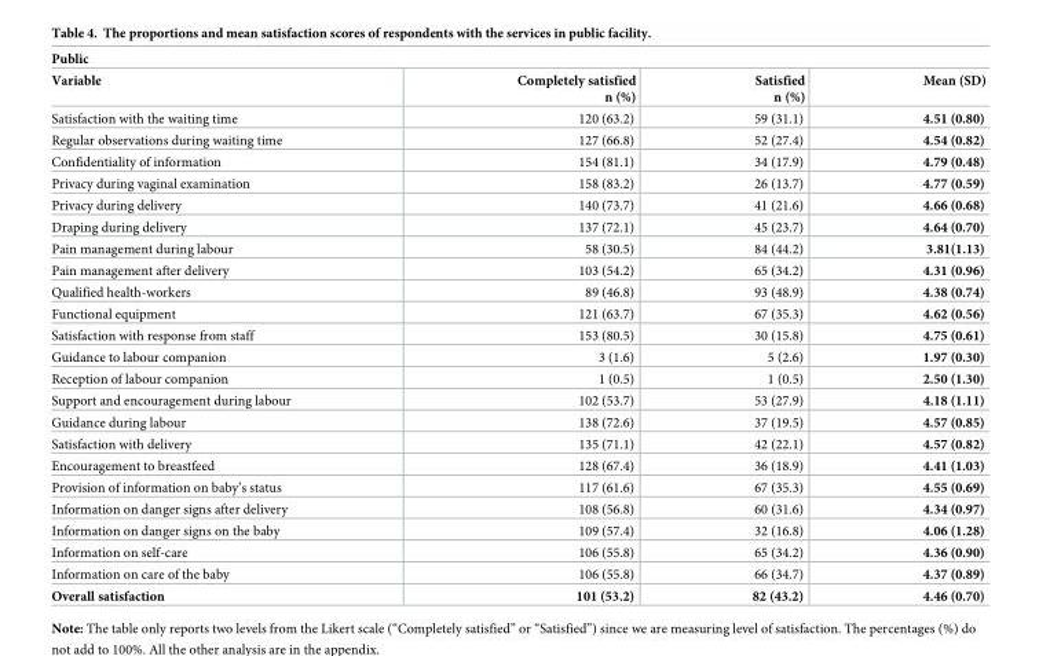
<table><thead><tr><td colspan="4">Public</td></tr><tr><td>Variable</td><td>Completely satisfied n (%)</td><td>Satisfied n (%)</td><td>Mean (SD)</td></tr></thead><tbody><tr><td>Satisfaction with the waiting time</td><td>120 (63.2)</td><td>59 (31.1)</td><td>4.51 (0.80)</td></tr><tr><td>Regular observations during waiting time</td><td>127 (66.8)</td><td>52 (27.4)</td><td>4.54 (0.82)</td></tr><tr><td>Confidentiality of information</td><td>154 (81.1)</td><td>34 (17.9)</td><td>4.79 (0.48)</td></tr><tr><td>Privacy during vaginal examination</td><td>158 (83.2)</td><td>26 (13.7)</td><td>4.77 (0.59)</td></tr><tr><td>Privacy during delivery</td><td>140 (73.7)</td><td>41 (21.6)</td><td>4.66 (0.68)</td></tr><tr><td>Draping during delivery</td><td>137 (72.1)</td><td>45 (23.7)</td><td>4.64 (0.70)</td></tr><tr><td>Pain management during labour</td><td>58 (30.5)</td><td>84 (44.2)</td><td>3.81(1.13)</td></tr><tr><td>Pain management after delivery</td><td>103 (54.2)</td><td>65 (34.2)</td><td>4.31 (0.96)</td></tr><tr><td>Qualified health-workers</td><td>89 (46.8)</td><td>93 (48.9)</td><td>4.38 (0.74)</td></tr><tr><td>Functional equipment</td><td>121 (63.7)</td><td>67 (35.3)</td><td>4.62 (0.56)</td></tr><tr><td>Satisfaction with response from staff</td><td>153 (80.5)</td><td>30 (15.8)</td><td>4.75 (0.61)</td></tr><tr><td>Guidance to labour companion</td><td>3 (1.6)</td><td>5 (2.6)</td><td>1.97 (0.30)</td></tr><tr><td>Reception of labour companion</td><td>1 (0.5)</td><td>1 (0.5)</td><td>2.50 (1.30)</td></tr><tr><td>Support and encouragement during labour</td><td>102 (53.7)</td><td>53 (27.9)</td><td>4.18 (1.11)</td></tr><tr><td>Guidance during labour</td><td>138 (72.6)</td><td>37 (19.5)</td><td>4.57 (0.85)</td></tr><tr><td>Satisfaction with delivery</td><td>135 (71.1)</td><td>42 (22.1)</td><td>4.57 (0.82)</td></tr><tr><td>Encouragement to breastfeed</td><td>128 (67.4)</td><td>36 (18.9)</td><td>4.41 (1.03)</td></tr><tr><td>Provision of information on baby’s status</td><td>117 (61.6)</td><td>67 (35.3)</td><td>4.55 (0.69)</td></tr><tr><td>Information on danger signs after delivery</td><td>108 (56.8)</td><td>60 (31.6)</td><td>4.34 (0.97)</td></tr><tr><td>Information on danger signs on the baby</td><td>109 (57.4)</td><td>32 (16.8)</td><td>4.06 (1.28)</td></tr><tr><td>Information on self-care</td><td>106 (55.8)</td><td>65 (34.2)</td><td>4.36 (0.90)</td></tr><tr><td>Information on care of the baby</td><td>106 (55.8)</td><td>66 (34.7)</td><td>4.37 (0.89)</td></tr><tr><td>Overall satisfaction</td><td>101 (53.2)</td><td>82 (43.2)</td><td>4.46 (0.70)</td></tr></tbody></table>